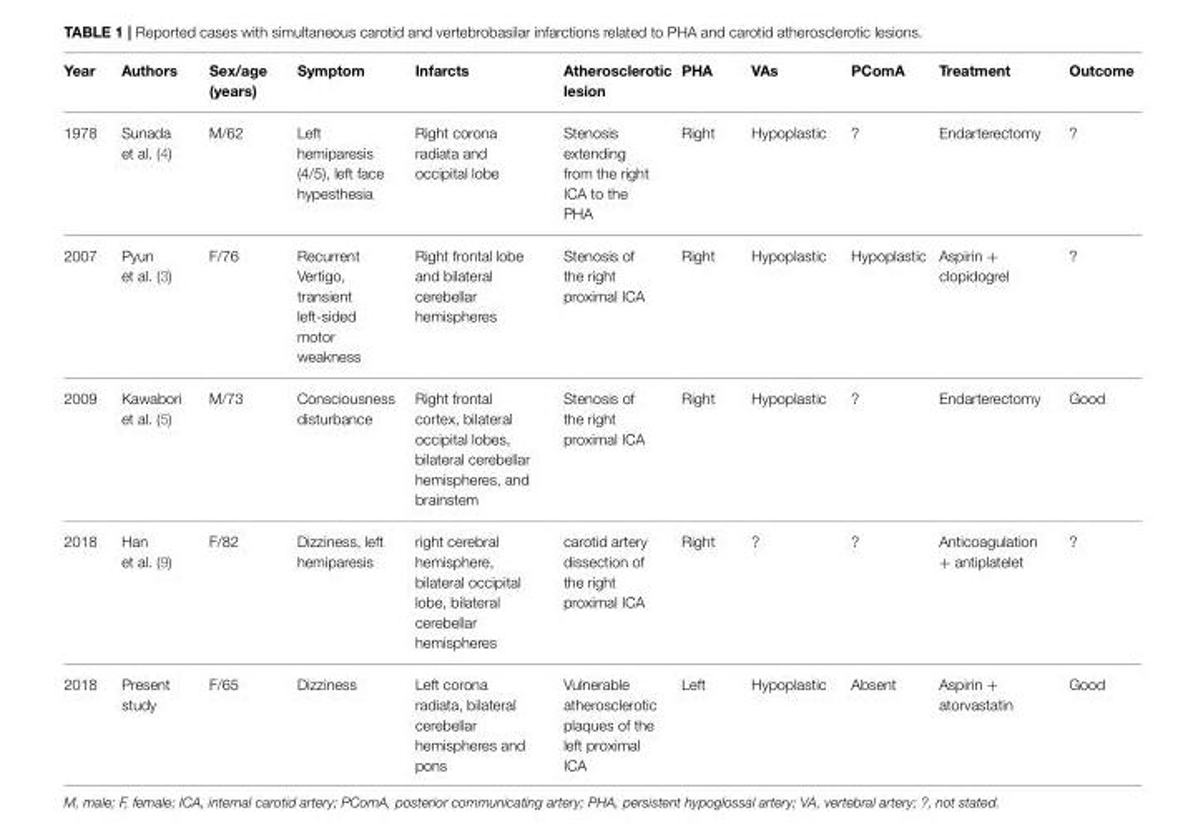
<table><thead><tr><td>Year</td><td>Authors</td><td>Sex/age (years)</td><td>Symptom</td><td>Infarcts</td><td>Atherosclerotic lesion</td><td>PHA</td><td>VAs</td><td>PComA</td><td>Treatment</td><td>Outcome</td></tr></thead><tbody><tr><td>1978</td><td>Sunada et al. (4)</td><td>M/62</td><td>Left hemiparesis (4/5), left face hypesthesia</td><td>Right corona radiata and occipital lobe</td><td>Stenosis extending from the right ICA to the PHA</td><td>Right</td><td>Hypoplastic</td><td>?</td><td>Endarterectomy</td><td>?</td></tr><tr><td>2007</td><td>Pyun et al. (3)</td><td>F/76</td><td>Recurrent Vertigo, transient left-sided motor weakness</td><td>Right frontal lobe and bilateral cerebellar hemispheres</td><td>Stenosis of the right proximal ICA</td><td>Right</td><td>Hypoplastic</td><td>Hypoplastic</td><td>Aspirin + clopidogrel</td><td>?</td></tr><tr><td>2009</td><td>Kawabori et al. (5)</td><td>M/73</td><td>Consciousness disturbance</td><td>Right frontal cortex, bilateral occipital lobes, bilateral cerebellar hemispheres, and brainstem</td><td>Stenosis of the right proximal ICA</td><td>Right</td><td>Hypoplastic</td><td>?</td><td>Endarterectomy</td><td>Good</td></tr><tr><td>2018</td><td>Han et al. (9)</td><td>F/82</td><td>Dizziness, left hemiparesis</td><td>right cerebral hemisphere, bilateral occipital lobe, bilateral cerebellar hemispheres</td><td>carotid artery dissection of the right proximal ICA</td><td>Right</td><td>?</td><td>?</td><td>Anticoagulation + antiplatelet</td><td>?</td></tr><tr><td>2018</td><td>Present study</td><td>F/65</td><td>Dizziness</td><td>Left corona radiata, bilateral cerebellar hemispheres and pons</td><td>Vulnerable atherosclerotic plaques of the left proximal ICA</td><td>Left</td><td>Hypoplastic</td><td>Absent</td><td>Aspirin + atorvastatin</td><td>Good</td></tr></tbody></table>